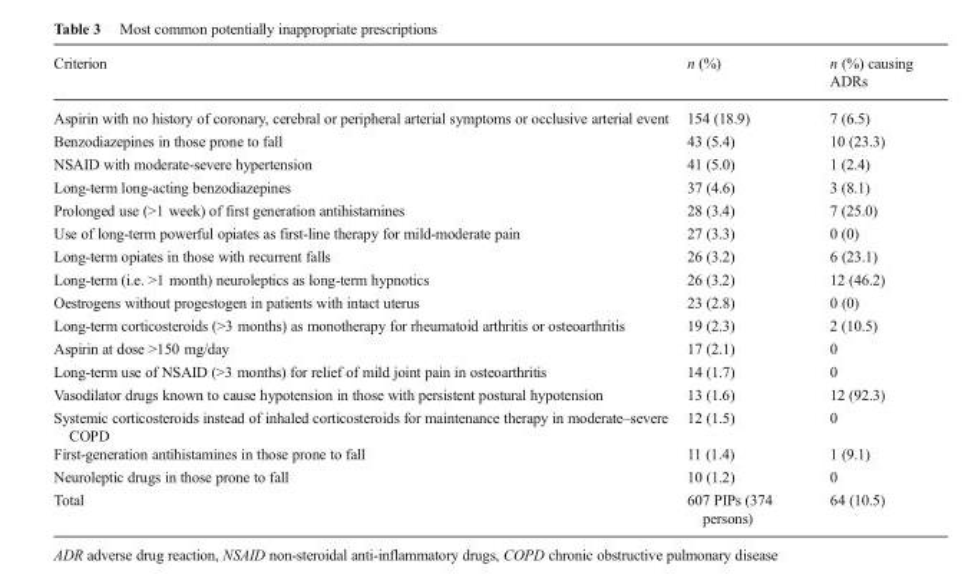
<table><thead><tr><td>Criterion</td><td>n (%)</td><td>n (%) causing ADRs</td></tr></thead><tbody><tr><td>Aspirin with no history of coronary, cerebral or peripheral arterial symptoms or occlusive arterial event</td><td>154 (18.9)</td><td>7 (6.5)</td></tr><tr><td>Benzodiazepines in those prone to fall</td><td>43 (5.4)</td><td>10 (23.3)</td></tr><tr><td>NSAID with moderate-severe hypertension</td><td>41 (5.0)</td><td>1 (2.4)</td></tr><tr><td>Long-term long-acting benzodiazepines</td><td>37 (4.6)</td><td>3 (8.1)</td></tr><tr><td>Prolonged use (&gt;1 week) of first generation antihistamines</td><td>28 (3.4)</td><td>7 (25.0)</td></tr><tr><td>Use of long-term powerful opiates as first-line therapy for mild-moderate pain</td><td>27 (3.3)</td><td>0 (0)</td></tr><tr><td>Long-term opiates in those with recurrent falls</td><td>26 (3.2)</td><td>6 (23.1)</td></tr><tr><td>Long-term (i.e. &gt;1 month) neuroleptics as long-term hypnotics</td><td>26 (3.2)</td><td>12 (46.2)</td></tr><tr><td>Oestrogens without progestogen in patients with intact uterus</td><td>23 (2.8)</td><td>0 (0)</td></tr><tr><td>Long-term corticosteroids (&gt;3 months) as monotherapy for rheumatoid arthritis or osteoarthritis</td><td>19 (2.3)</td><td>2 (10.5)</td></tr><tr><td>Aspirin at dose &gt;150 mg/day</td><td>17 (2.1)</td><td>0</td></tr><tr><td>Long-term use of NSAID (&gt;3 months) for relief of mild joint pain in osteoarthritis</td><td>14 (1.7)</td><td>0</td></tr><tr><td>Vasodilator drugs known to cause hypotension in those with persistent postural hypotension</td><td>13 (1.6)</td><td>12 (92.3)</td></tr><tr><td>Systemic corticosteroids instead of inhaled corticosteroids for maintenance therapy in moderate–severe COPD</td><td>12 (1.5)</td><td>0</td></tr><tr><td>First-generation antihistamines in those prone to fall</td><td>11 (1.4)</td><td>1 (9.1)</td></tr><tr><td>Neuroleptic drugs in those prone to fall</td><td>10 (1.2)</td><td>0</td></tr><tr><td>Total</td><td>607 PIPs (374 persons)</td><td>64 (10.5)</td></tr></tbody></table>